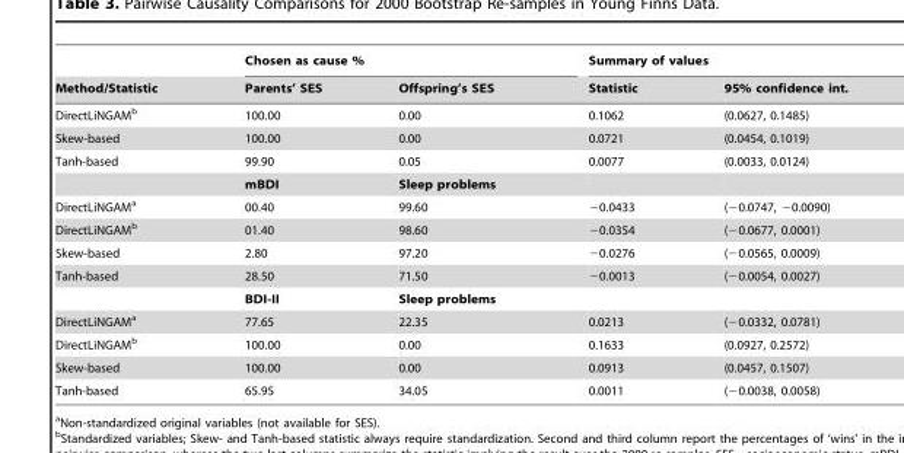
<table><thead><tr><td rowspan="2">Method/Statistic</td><td colspan="2">Chosen as cause %</td><td colspan="2">Summary of values</td></tr><tr><td>Parents’ SES</td><td>Offspring’s SES</td><td>Statistic</td><td>95% confidence int.</td></tr></thead><tbody><tr><td>DirectLiNGAM<sup>b</sup></td><td>100.00</td><td>0.00</td><td>0.1062</td><td>(0.0627, 0.1485)</td></tr><tr><td>Skew-based</td><td>100.00</td><td>0.00</td><td>0.0721</td><td>(0.0454, 0.1019)</td></tr><tr><td rowspan="2">Tanh-based</td><td>99.90</td><td>0.05</td><td>0.0077</td><td>(0.0033, 0.0124)</td></tr><tr><td>mBDI</td><td>Sleep problems</td><td></td><td></td></tr><tr><td>DirectLiNGAM<sup>a</sup></td><td>00.40</td><td>99.60</td><td>−0.0433</td><td>(−0.0747, −0.0090)</td></tr><tr><td>DirectLiNGAM<sup>b</sup></td><td>01.40</td><td>98.60</td><td>−0.0354</td><td>(−0.0677, 0.0001)</td></tr><tr><td>Skew-based</td><td>2.80</td><td>97.20</td><td>−0.0276</td><td>(−0.0565, 0.0009)</td></tr><tr><td rowspan="2">Tanh-based</td><td>28.50</td><td>71.50</td><td>−0.0013</td><td>(−0.0054, 0.0027)</td></tr><tr><td>BDI-II</td><td>Sleep problems</td><td></td><td></td></tr><tr><td>DirectLiNGAM<sup>a</sup></td><td>77.65</td><td>22.35</td><td>0.0213</td><td>(−0.0332, 0.0781)</td></tr><tr><td>DirectLiNGAM<sup>b</sup></td><td>100.00</td><td>0.00</td><td>0.1633</td><td>(0.0927, 0.2572)</td></tr><tr><td>Skew-based</td><td>100.00</td><td>0.00</td><td>0.0913</td><td>(0.0457, 0.1507)</td></tr><tr><td>Tanh-based</td><td>65.95</td><td>34.05</td><td>0.0011</td><td>(−0.0038, 0.0058)</td></tr></tbody></table>